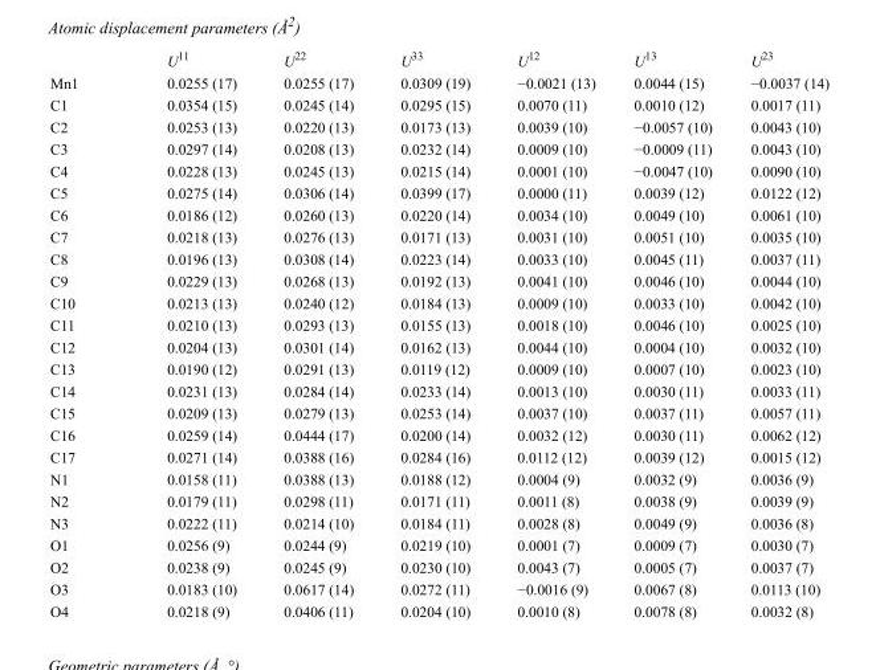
<table><thead><tr><td></td><td>U11</td><td>U22</td><td>U33</td><td>U12</td><td>U13</td><td>U23</td></tr></thead><tbody><tr><td>Mn1</td><td>0.0255 (17)</td><td>0.0255 (17)</td><td>0.0309 (19)</td><td>−0.0021 (13)</td><td>0.0044 (15)</td><td>−0.0037 (14)</td></tr><tr><td>C1</td><td>0.0354 (15)</td><td>0.0245 (14)</td><td>0.0295 (15)</td><td>0.0070 (11)</td><td>0.0010 (12)</td><td>0.0017 (11)</td></tr><tr><td>C2</td><td>0.0253 (13)</td><td>0.0220 (13)</td><td>0.0173 (13)</td><td>0.0039 (10)</td><td>−0.0057 (10)</td><td>0.0043 (10)</td></tr><tr><td>C3</td><td>0.0297 (14)</td><td>0.0208 (13)</td><td>0.0232 (14)</td><td>0.0009 (10)</td><td>−0.0009 (11)</td><td>0.0043 (10)</td></tr><tr><td>C4</td><td>0.0228 (13)</td><td>0.0245 (13)</td><td>0.0215 (14)</td><td>0.0001 (10)</td><td>−0.0047 (10)</td><td>0.0090 (10)</td></tr><tr><td>C5</td><td>0.0275 (14)</td><td>0.0306 (14)</td><td>0.0399 (17)</td><td>0.0000 (11)</td><td>0.0039 (12)</td><td>0.0122 (12)</td></tr><tr><td>C6</td><td>0.0186 (12)</td><td>0.0260 (13)</td><td>0.0220 (14)</td><td>0.0034 (10)</td><td>0.0049 (10)</td><td>0.0061 (10)</td></tr><tr><td>C7</td><td>0.0218 (13)</td><td>0.0276 (13)</td><td>0.0171 (13)</td><td>0.0031 (10)</td><td>0.0051 (10)</td><td>0.0035 (10)</td></tr><tr><td>C8</td><td>0.0196 (13)</td><td>0.0308 (14)</td><td>0.0223 (14)</td><td>0.0033 (10)</td><td>0.0045 (11)</td><td>0.0037 (11)</td></tr><tr><td>C9</td><td>0.0229 (13)</td><td>0.0268 (13)</td><td>0.0192 (13)</td><td>0.0041 (10)</td><td>0.0046 (10)</td><td>0.0044 (10)</td></tr><tr><td>C10</td><td>0.0213 (13)</td><td>0.0240 (12)</td><td>0.0184 (13)</td><td>0.0009 (10)</td><td>0.0033 (10)</td><td>0.0042 (10)</td></tr><tr><td>C11</td><td>0.0210 (13)</td><td>0.0293 (13)</td><td>0.0155 (13)</td><td>0.0018 (10)</td><td>0.0046 (10)</td><td>0.0025 (10)</td></tr><tr><td>C12</td><td>0.0204 (13)</td><td>0.0301 (14)</td><td>0.0162 (13)</td><td>0.0044 (10)</td><td>0.0004 (10)</td><td>0.0032 (10)</td></tr><tr><td>C13</td><td>0.0190 (12)</td><td>0.0291 (13)</td><td>0.0119 (12)</td><td>0.0009 (10)</td><td>0.0007 (10)</td><td>0.0023 (10)</td></tr><tr><td>C14</td><td>0.0231 (13)</td><td>0.0284 (14)</td><td>0.0233 (14)</td><td>0.0013 (10)</td><td>0.0030 (11)</td><td>0.0033 (11)</td></tr><tr><td>C15</td><td>0.0209 (13)</td><td>0.0279 (13)</td><td>0.0253 (14)</td><td>0.0037 (10)</td><td>0.0037 (11)</td><td>0.0057 (11)</td></tr><tr><td>C16</td><td>0.0259 (14)</td><td>0.0444 (17)</td><td>0.0200 (14)</td><td>0.0032 (12)</td><td>0.0030 (11)</td><td>0.0062 (12)</td></tr><tr><td>C17</td><td>0.0271 (14)</td><td>0.0388 (16)</td><td>0.0284 (16)</td><td>0.0112 (12)</td><td>0.0039 (12)</td><td>0.0015 (12)</td></tr><tr><td>N1</td><td>0.0158 (11)</td><td>0.0388 (13)</td><td>0.0188 (12)</td><td>0.0004 (9)</td><td>0.0032 (9)</td><td>0.0036 (9)</td></tr><tr><td>N2</td><td>0.0179 (11)</td><td>0.0298 (11)</td><td>0.0171 (11)</td><td>0.0011 (8)</td><td>0.0038 (9)</td><td>0.0039 (9)</td></tr><tr><td>N3</td><td>0.0222 (11)</td><td>0.0214 (10)</td><td>0.0184 (11)</td><td>0.0028 (8)</td><td>0.0049 (9)</td><td>0.0036 (8)</td></tr><tr><td>O1</td><td>0.0256 (9)</td><td>0.0244 (9)</td><td>0.0219 (10)</td><td>0.0001 (7)</td><td>0.0009 (7)</td><td>0.0030 (7)</td></tr><tr><td>O2</td><td>0.0238 (9)</td><td>0.0245 (9)</td><td>0.0230 (10)</td><td>0.0043 (7)</td><td>0.0005 (7)</td><td>0.0037 (7)</td></tr><tr><td>O3</td><td>0.0183 (10)</td><td>0.0617 (14)</td><td>0.0272 (11)</td><td>−0.0016 (9)</td><td>0.0067 (8)</td><td>0.0113 (10)</td></tr><tr><td>O4</td><td>0.0218 (9)</td><td>0.0406 (11)</td><td>0.0204 (10)</td><td>0.0010 (8)</td><td>0.0078 (8)</td><td>0.0032 (8)</td></tr></tbody></table>